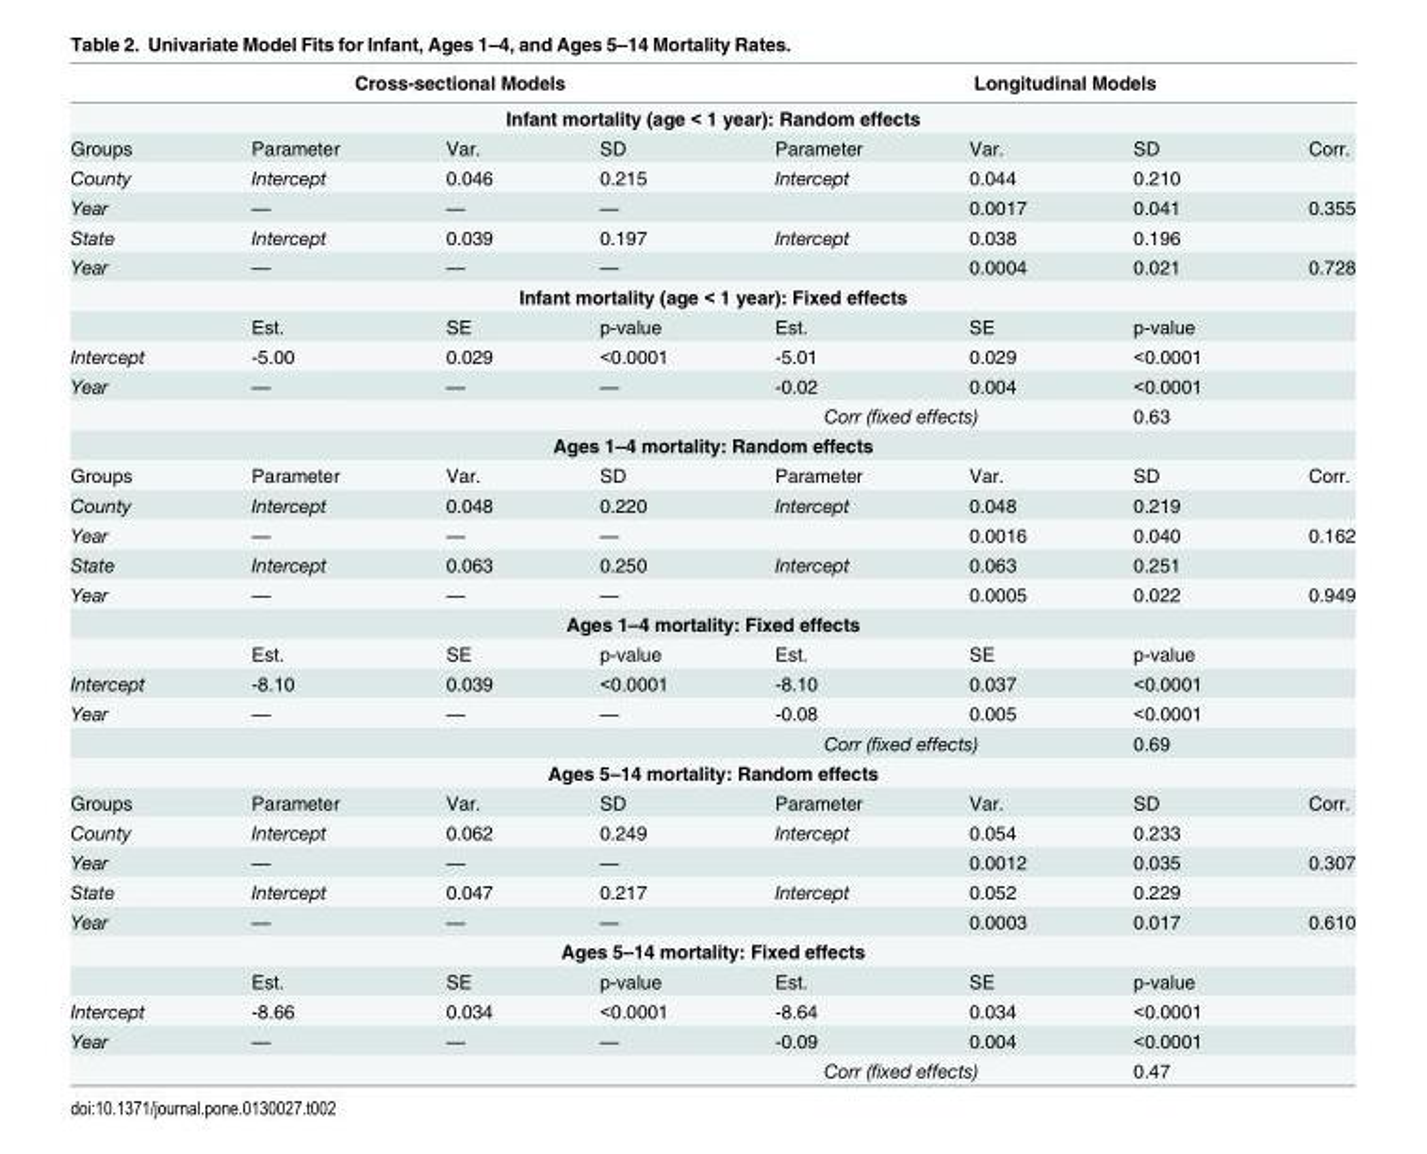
<table><thead><tr><td></td><td colspan="3">Cross-sectional Models</td><td colspan="4">Longitudinal Models</td></tr><tr><td colspan="8">Infant mortality (age &lt; 1 year): Random effects</td></tr><tr><td>Groups</td><td>Parameter</td><td>Var.</td><td>SD</td><td>Parameter</td><td>Var.</td><td>SD</td><td>Corr.</td></tr></thead><tbody><tr><td>County</td><td>Intercept</td><td>0.046</td><td>0.215</td><td>Intercept</td><td>0.044</td><td>0.210</td><td></td></tr><tr><td>Year</td><td>—</td><td>—</td><td>—</td><td></td><td>0.0017</td><td>0.041</td><td>0.355</td></tr><tr><td>State</td><td>Intercept</td><td>0.039</td><td>0.197</td><td>Intercept</td><td>0.038</td><td>0.196</td><td></td></tr><tr><td>Year</td><td>—</td><td>—</td><td>—</td><td></td><td>0.0004</td><td>0.021</td><td>0.728</td></tr><tr><td colspan="8">Infant mortality (age &lt; 1 year): Fixed effects</td></tr><tr><td></td><td>Est.</td><td>SE</td><td>p-value</td><td>Est.</td><td>SE</td><td>p-value</td><td></td></tr><tr><td>Intercept</td><td>-5.00</td><td>0.029</td><td>&lt;0.0001</td><td>-5.01</td><td>0.029</td><td>&lt;0.0001</td><td></td></tr><tr><td rowspan="2">Year</td><td>—</td><td>—</td><td>—</td><td>-0.02</td><td>0.004</td><td>&lt;0.0001</td><td></td></tr><tr><td></td><td></td><td></td><td colspan="2">Corr (fixed effects)</td><td>0.63</td><td></td></tr><tr><td colspan="8">Ages 1–4 mortality: Random effects</td></tr><tr><td>Groups</td><td>Parameter</td><td>Var.</td><td>SD</td><td>Parameter</td><td>Var.</td><td>SD</td><td>Corr.</td></tr><tr><td>County</td><td>Intercept</td><td>0.048</td><td>0.220</td><td>Intercept</td><td>0.048</td><td>0.219</td><td></td></tr><tr><td>Year</td><td>—</td><td>—</td><td>—</td><td></td><td>0.0016</td><td>0.040</td><td>0.162</td></tr><tr><td>State</td><td>Intercept</td><td>0.063</td><td>0.250</td><td>Intercept</td><td>0.063</td><td>0.251</td><td></td></tr><tr><td>Year</td><td>—</td><td>—</td><td>—</td><td></td><td>0.0005</td><td>0.022</td><td>0.949</td></tr><tr><td colspan="8">Ages 1–4 mortality: Fixed effects</td></tr><tr><td></td><td>Est.</td><td>SE</td><td>p-value</td><td>Est.</td><td>SE</td><td>p-value</td><td></td></tr><tr><td>Intercept</td><td>-8.10</td><td>0.039</td><td>&lt;0.0001</td><td>-8.10</td><td>0.037</td><td>&lt;0.0001</td><td></td></tr><tr><td rowspan="2">Year</td><td>—</td><td>—</td><td>—</td><td>-0.08</td><td>0.005</td><td>&lt;0.0001</td><td></td></tr><tr><td></td><td></td><td></td><td colspan="2">Corr (fixed effects)</td><td>0.69</td><td></td></tr><tr><td colspan="8">Ages 5–14 mortality: Random effects</td></tr><tr><td>Groups</td><td>Parameter</td><td>Var.</td><td>SD</td><td>Parameter</td><td>Var.</td><td>SD</td><td>Corr.</td></tr><tr><td>County</td><td>Intercept</td><td>0.062</td><td>0.249</td><td>Intercept</td><td>0.054</td><td>0.233</td><td></td></tr><tr><td>Year</td><td>—</td><td>—</td><td>—</td><td></td><td>0.0012</td><td>0.035</td><td>0.307</td></tr><tr><td>State</td><td>Intercept</td><td>0.047</td><td>0.217</td><td>Intercept</td><td>0.052</td><td>0.229</td><td></td></tr><tr><td>Year</td><td>—</td><td>—</td><td>—</td><td></td><td>0.0003</td><td>0.017</td><td>0.610</td></tr><tr><td colspan="8">Ages 5–14 mortality: Fixed effects</td></tr><tr><td></td><td>Est.</td><td>SE</td><td>p-value</td><td>Est.</td><td>SE</td><td>p-value</td><td></td></tr><tr><td>Intercept</td><td>-8.66</td><td>0.034</td><td>&lt;0.0001</td><td>-8.64</td><td>0.034</td><td>&lt;0.0001</td><td></td></tr><tr><td rowspan="2">Year</td><td>—</td><td>—</td><td>—</td><td>-0.09</td><td>0.004</td><td>&lt;0.0001</td><td></td></tr><tr><td></td><td></td><td></td><td colspan="2">Corr (fixed effects)</td><td>0.47</td><td></td></tr></tbody></table>